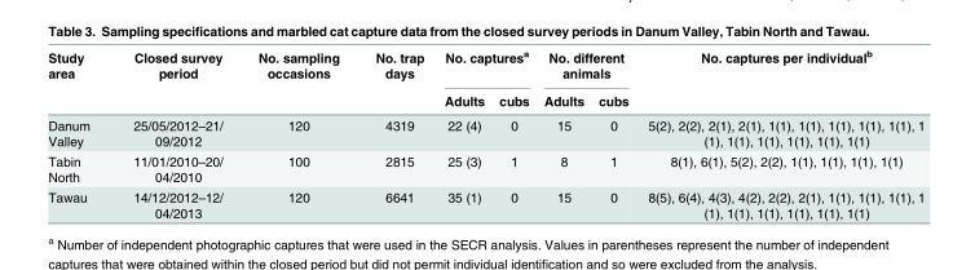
<table><thead><tr><td rowspan="2">Study area</td><td rowspan="2">Closed survey period</td><td rowspan="2">No. sampling occasions</td><td rowspan="2">No. trap days</td><td colspan="2">No. captures<sup>a</sup></td><td colspan="2">No. different animals</td><td rowspan="2">No. captures per individual<sup>b</sup></td></tr><tr><td>Adults</td><td>cubs</td><td>Adults</td><td>cubs</td></tr></thead><tbody><tr><td>Danum Valley</td><td>25/05/2012–21/ 09/2012</td><td>120</td><td>4319</td><td>22 (4)</td><td>0</td><td>15</td><td>0</td><td>5(2), 2(2), 2(1), 2(1), 1(1), 1(1), 1(1), 1(1), 1(1), 1 (1), 1(1), 1(1), 1(1), 1(1), 1(1)</td></tr><tr><td>Tabin North</td><td>11/01/2010–20/ 04/2010</td><td>100</td><td>2815</td><td>25 (3)</td><td>1</td><td>8</td><td>1</td><td>8(1), 6(1), 5(2), 2(2), 1(1), 1(1), 1(1), 1(1)</td></tr><tr><td>Tawau</td><td>14/12/2012–12/ 04/2013</td><td>120</td><td>6641</td><td>35 (1)</td><td>0</td><td>15</td><td>0</td><td>8(5), 6(4), 4(3), 4(2), 2(2), 2(1), 1(1), 1(1), 1(1), 1 (1), 1(1), 1(1), 1(1), 1(1), 1(1)</td></tr></tbody></table>